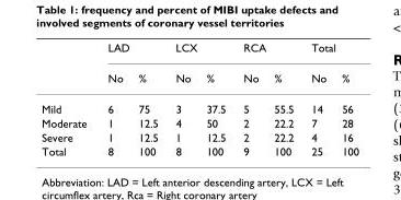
<table><thead><tr><td rowspan="2"></td><td colspan="2">LAD</td><td colspan="2">LCX</td><td colspan="2">RCA</td><td colspan="2">Total</td></tr><tr><td>No</td><td>%</td><td>No</td><td>%</td><td>No</td><td>%</td><td>No</td><td>%</td></tr></thead><tbody><tr><td>Mild</td><td>6</td><td>75</td><td>3</td><td>37.5</td><td>5</td><td>55.5</td><td>14</td><td>56</td></tr><tr><td>Moderate</td><td>1</td><td>12.5</td><td>4</td><td>50</td><td>2</td><td>22.2</td><td>7</td><td>28</td></tr><tr><td>Severe</td><td>1</td><td>12.5</td><td>1</td><td>12.5</td><td>2</td><td>22.2</td><td>4</td><td>16</td></tr><tr><td>Total</td><td>8</td><td>100</td><td>8</td><td>100</td><td>9</td><td>100</td><td>25</td><td>100</td></tr></tbody></table>